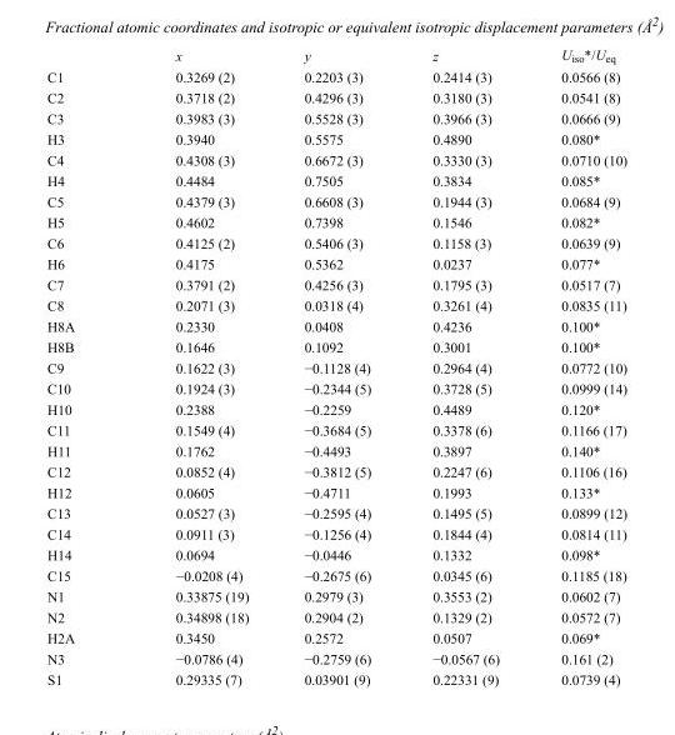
<table><thead><tr><td></td><td>x</td><td>y</td><td>z</td><td>U<sub>iso</sub>*/U<sub>eq</sub></td></tr></thead><tbody><tr><td>C1</td><td>0.3269 (2)</td><td>0.2203 (3)</td><td>0.2414 (3)</td><td>0.0566 (8)</td></tr><tr><td>C2</td><td>0.3718 (2)</td><td>0.4296 (3)</td><td>0.3180 (3)</td><td>0.0541 (8)</td></tr><tr><td>C3</td><td>0.3983 (3)</td><td>0.5528 (3)</td><td>0.3966 (3)</td><td>0.0666 (9)</td></tr><tr><td>H3</td><td>0.3940</td><td>0.5575</td><td>0.4890</td><td>0.080*</td></tr><tr><td>C4</td><td>0.4308 (3)</td><td>0.6672 (3)</td><td>0.3330 (3)</td><td>0.0710 (10)</td></tr><tr><td>H4</td><td>0.4484</td><td>0.7505</td><td>0.3834</td><td>0.085*</td></tr><tr><td>C5</td><td>0.4379 (3)</td><td>0.6608 (3)</td><td>0.1944 (3)</td><td>0.0684 (9)</td></tr><tr><td>H5</td><td>0.4602</td><td>0.7398</td><td>0.1546</td><td>0.082*</td></tr><tr><td>C6</td><td>0.4125 (2)</td><td>0.5406 (3)</td><td>0.1158 (3)</td><td>0.0639 (9)</td></tr><tr><td>H6</td><td>0.4175</td><td>0.5362</td><td>0.0237</td><td>0.077*</td></tr><tr><td>C7</td><td>0.3791 (2)</td><td>0.4256 (3)</td><td>0.1795 (3)</td><td>0.0517 (7)</td></tr><tr><td>C8</td><td>0.2071 (3)</td><td>0.0318 (4)</td><td>0.3261 (4)</td><td>0.0835 (11)</td></tr><tr><td>H8A</td><td>0.2330</td><td>0.0408</td><td>0.4236</td><td>0.100*</td></tr><tr><td>H8B</td><td>0.1646</td><td>0.1092</td><td>0.3001</td><td>0.100*</td></tr><tr><td>C9</td><td>0.1622 (3)</td><td>−0.1128 (4)</td><td>0.2964 (4)</td><td>0.0772 (10)</td></tr><tr><td>C10</td><td>0.1924 (3)</td><td>−0.2344 (5)</td><td>0.3728 (5)</td><td>0.0999 (14)</td></tr><tr><td>H10</td><td>0.2388</td><td>−0.2259</td><td>0.4489</td><td>0.120*</td></tr><tr><td>C11</td><td>0.1549 (4)</td><td>−0.3684 (5)</td><td>0.3378 (6)</td><td>0.1166 (17)</td></tr><tr><td>H11</td><td>0.1762</td><td>−0.4493</td><td>0.3897</td><td>0.140*</td></tr><tr><td>C12</td><td>0.0852 (4)</td><td>−0.3812 (5)</td><td>0.2247 (6)</td><td>0.1106 (16)</td></tr><tr><td>H12</td><td>0.0605</td><td>−0.4711</td><td>0.1993</td><td>0.133*</td></tr><tr><td>C13</td><td>0.0527 (3)</td><td>−0.2595 (4)</td><td>0.1495 (5)</td><td>0.0899 (12)</td></tr><tr><td>C14</td><td>0.0911 (3)</td><td>−0.1256 (4)</td><td>0.1844 (4)</td><td>0.0814 (11)</td></tr><tr><td>H14</td><td>0.0694</td><td>−0.0446</td><td>0.1332</td><td>0.098*</td></tr><tr><td>C15</td><td>−0.0208 (4)</td><td>−0.2675 (6)</td><td>0.0345 (6)</td><td>0.1185 (18)</td></tr><tr><td>N1</td><td>0.33875 (19)</td><td>0.2979 (3)</td><td>0.3553 (2)</td><td>0.0602 (7)</td></tr><tr><td>N2</td><td>0.34898 (18)</td><td>0.2904 (2)</td><td>0.1329 (2)</td><td>0.0572 (7)</td></tr><tr><td>H2A</td><td>0.3450</td><td>0.2572</td><td>0.0507</td><td>0.069*</td></tr><tr><td>N3</td><td>−0.0786 (4)</td><td>−0.2759 (6)</td><td>−0.0567 (6)</td><td>0.161 (2)</td></tr><tr><td>S1</td><td>0.29335 (7)</td><td>0.03901 (9)</td><td>0.22331 (9)</td><td>0.0739 (4)</td></tr></tbody></table>